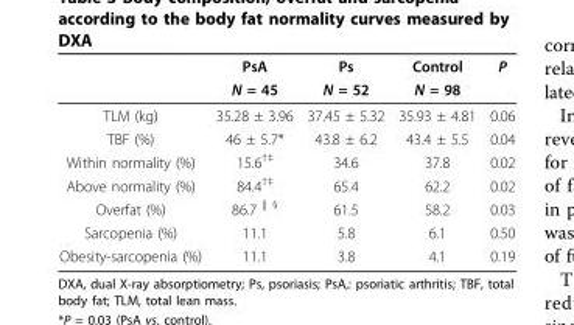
<table><thead><tr><td rowspan="2"></td><td rowspan="2">PsA N = 45</td><td rowspan="2">Ps N = 52</td><td rowspan="2">Control N = 98</td><td rowspan="2">P</td></tr><tr></tr></thead><tbody><tr><td>TLM (kg)</td><td>35.28 ± 3.96</td><td>37.45 ± 5.32</td><td>35.93 ± 4.81</td><td>0.06</td></tr><tr><td>TBF (%)</td><td>46 ± 5.7*</td><td>43.8 ± 6.2</td><td>43.4 ± 5.5</td><td>0.04</td></tr><tr><td>Within normality (%)</td><td>15.6<sup>†‡</sup></td><td>34.6</td><td>37.8</td><td>0.02</td></tr><tr><td>Above normality (%)</td><td>84.4<sup>†‡</sup></td><td>65.4</td><td>62.2</td><td>0.02</td></tr><tr><td>Overfat (%)</td><td>86.7 <sup>|| §</sup></td><td>61.5</td><td>58.2</td><td>0.03</td></tr><tr><td>Sarcopenia (%)</td><td>11.1</td><td>5.8</td><td>6.1</td><td>0.50</td></tr><tr><td>Obesity-sarcopenia (%)</td><td>11.1</td><td>3.8</td><td>4.1</td><td>0.19</td></tr></tbody></table>